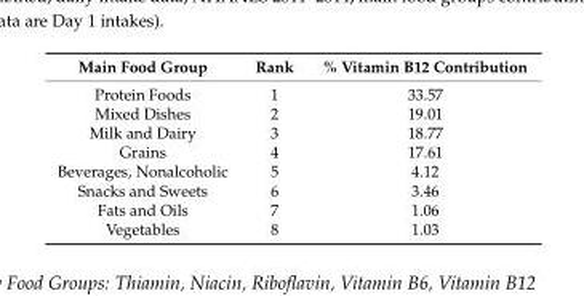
<table><thead><tr><td>Main Food Group</td><td>Rank</td><td>% Vitamin B12 Contribution</td></tr></thead><tbody><tr><td>Protein Foods</td><td>1</td><td>33.57</td></tr><tr><td>Mixed Dishes</td><td>2</td><td>19.01</td></tr><tr><td>Milk and Dairy</td><td>3</td><td>18.77</td></tr><tr><td>Grains</td><td>4</td><td>17.61</td></tr><tr><td>Beverages, Nonalcoholic</td><td>5</td><td>4.12</td></tr><tr><td>Snacks and Sweets</td><td>6</td><td>3.46</td></tr><tr><td>Fats and Oils</td><td>7</td><td>1.06</td></tr><tr><td>Vegetables</td><td>8</td><td>1.03</td></tr></tbody></table>